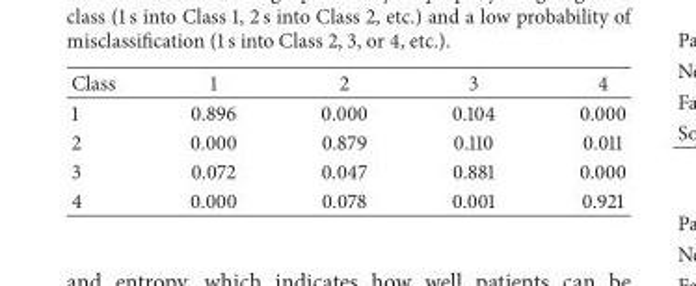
<table><thead><tr><td>Class</td><td>1</td><td>2</td><td>3</td><td>4</td></tr></thead><tbody><tr><td>1</td><td>0.896</td><td>0.000</td><td>0.104</td><td>0.000</td></tr><tr><td>2</td><td>0.000</td><td>0.879</td><td>0.110</td><td>0.011</td></tr><tr><td>3</td><td>0.072</td><td>0.047</td><td>0.881</td><td>0.000</td></tr><tr><td>4</td><td>0.000</td><td>0.078</td><td>0.001</td><td>0.921</td></tr></tbody></table>